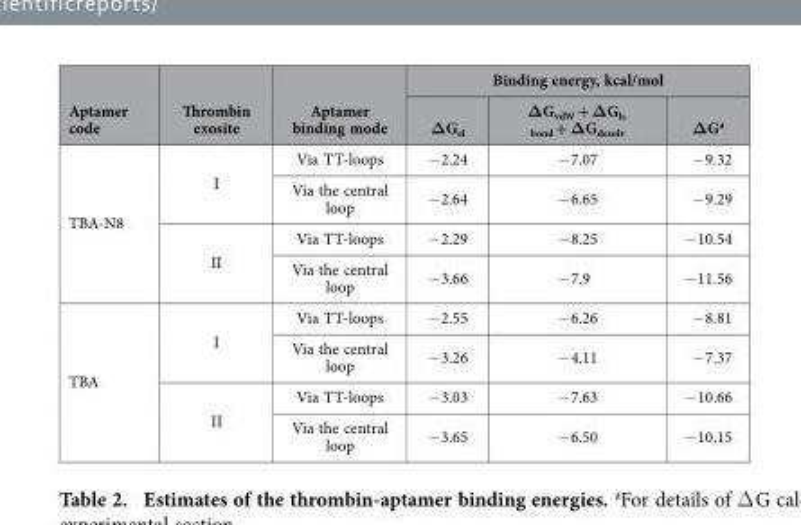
<table><thead><tr><td rowspan="2">Aptamer code</td><td rowspan="2">Thrombin exosite</td><td rowspan="2">Aptamer binding mode</td><td colspan="3">Binding energy, kcal/mol</td></tr><tr><td>ΔG<sub>el</sub></td><td>ΔG<sub>vdW</sub> + ΔG<sub>h- bond</sub> + ΔG<sub>desolv</sub></td><td>ΔG<sup>a</sup></td></tr></thead><tbody><tr><td rowspan="4">TBA-N8</td><td rowspan="2">I</td><td>Via TT-loops</td><td>− 2.24</td><td>− 7.07</td><td>− 9.32</td></tr><tr><td>Via the central loop</td><td>− 2.64</td><td>− 6.65</td><td>− 9.29</td></tr><tr><td rowspan="2">II</td><td>Via TT-loops</td><td>− 2.29</td><td>− 8.25</td><td>− 10.54</td></tr><tr><td>Via the central loop</td><td>− 3.66</td><td>− 7.9</td><td>− 11.56</td></tr><tr><td rowspan="4">TBA</td><td rowspan="2">I</td><td>Via TT-loops</td><td>− 2.55</td><td>− 6.26</td><td>− 8.81</td></tr><tr><td>Via the central loop</td><td>− 3.26</td><td>− 4.11</td><td>− 7.37</td></tr><tr><td rowspan="2">II</td><td>Via TT-loops</td><td>− 3.03</td><td>− 7.63</td><td>− 10.66</td></tr><tr><td>Via the central loop</td><td>− 3.65</td><td>− 6.50</td><td>− 10.15</td></tr></tbody></table>